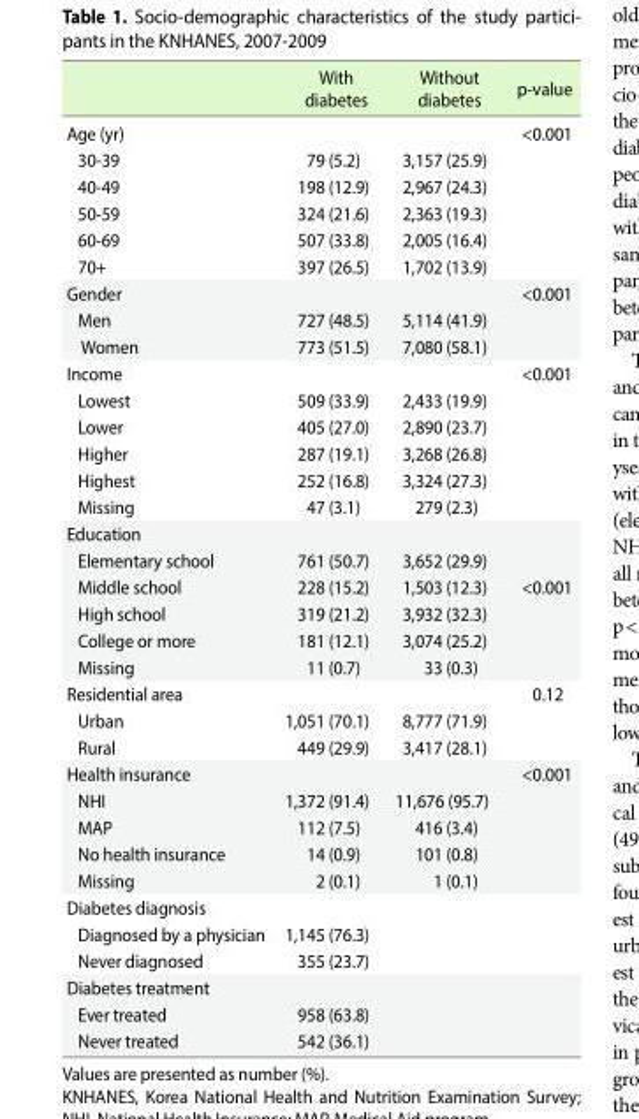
<table><thead><tr><td></td><td>With diabetes</td><td>Without diabetes</td><td>p-value</td></tr></thead><tbody><tr><td>Age (yr)</td><td></td><td></td><td>&lt;0.001</td></tr><tr><td>30-39</td><td>79 (5.2)</td><td>3,157 (25.9)</td><td></td></tr><tr><td>40-49</td><td>198 (12.9)</td><td>2,967 (24.3)</td><td></td></tr><tr><td>50-59</td><td>324 (21.6)</td><td>2,363 (19.3)</td><td></td></tr><tr><td>60-69</td><td>507 (33.8)</td><td>2,005 (16.4)</td><td></td></tr><tr><td>70+</td><td>397 (26.5)</td><td>1,702 (13.9)</td><td></td></tr><tr><td>Gender</td><td></td><td></td><td>&lt;0.001</td></tr><tr><td>Men</td><td>727 (48.5)</td><td>5,114 (41.9)</td><td></td></tr><tr><td>Women</td><td>773 (51.5)</td><td>7,080 (58.1)</td><td></td></tr><tr><td>Income</td><td></td><td></td><td>&lt;0.001</td></tr><tr><td>Lowest</td><td>509 (33.9)</td><td>2,433 (19.9)</td><td></td></tr><tr><td>Lower</td><td>405 (27.0)</td><td>2,890 (23.7)</td><td></td></tr><tr><td>Higher</td><td>287 (19.1)</td><td>3,268 (26.8)</td><td></td></tr><tr><td>Highest</td><td>252 (16.8)</td><td>3,324 (27.3)</td><td></td></tr><tr><td>Missing</td><td>47 (3.1)</td><td>279 (2.3)</td><td></td></tr><tr><td colspan="4">Education</td></tr><tr><td>Elementary school</td><td>761 (50.7)</td><td>3,652 (29.9)</td><td></td></tr><tr><td>Middle school</td><td>228 (15.2)</td><td>1,503 (12.3)</td><td>&lt;0.001</td></tr><tr><td>High school</td><td>319 (21.2)</td><td>3,932 (32.3)</td><td></td></tr><tr><td>College or more</td><td>181 (12.1)</td><td>3,074 (25.2)</td><td></td></tr><tr><td>Missing</td><td>11 (0.7)</td><td>33 (0.3)</td><td></td></tr><tr><td>Residential area</td><td></td><td></td><td>0.12</td></tr><tr><td>Urban</td><td>1,051 (70.1)</td><td>8,777 (71.9)</td><td></td></tr><tr><td>Rural</td><td>449 (29.9)</td><td>3,417 (28.1)</td><td></td></tr><tr><td>Health insurance</td><td></td><td></td><td>&lt;0.001</td></tr><tr><td>NHI</td><td>1,372 (91.4)</td><td>11,676 (95.7)</td><td></td></tr><tr><td>MAP</td><td>112 (7.5)</td><td>416 (3.4)</td><td></td></tr><tr><td>No health insurance</td><td>14 (0.9)</td><td>101 (0.8)</td><td></td></tr><tr><td>Missing</td><td>2 (0.1)</td><td>1 (0.1)</td><td></td></tr><tr><td colspan="4">Diabetes diagnosis</td></tr><tr><td>Diagnosed by a physician</td><td>1,145 (76.3)</td><td></td><td></td></tr><tr><td>Never diagnosed</td><td>355 (23.7)</td><td></td><td></td></tr><tr><td colspan="4">Diabetes treatment</td></tr><tr><td>Ever treated</td><td>958 (63.8)</td><td></td><td></td></tr><tr><td>Never treated</td><td>542 (36.1)</td><td></td><td></td></tr></tbody></table>